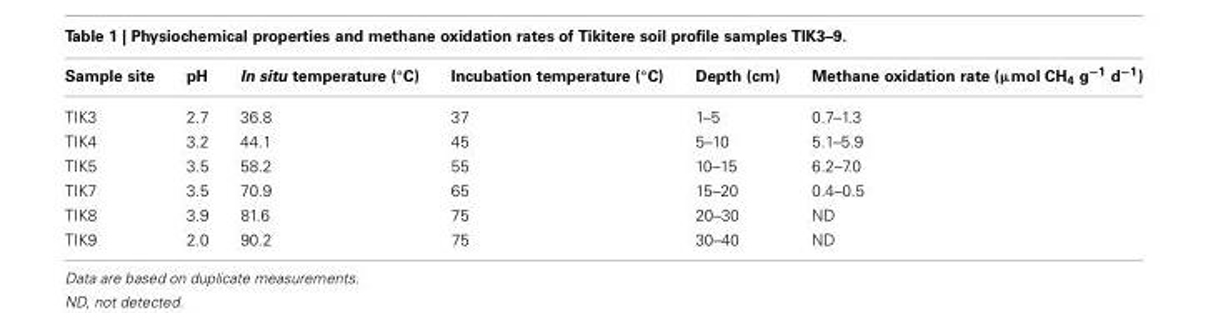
<table><thead><tr><td>Sample site</td><td>pH</td><td>In situ temperature (◦C)</td><td>Incubation temperature (◦C)</td><td>Depth (cm)</td><td>Methane oxidation rate (µmol CH<sub>4</sub> g<sup>−1</sup> d<sup>−1</sup>)</td></tr></thead><tbody><tr><td>TIK3</td><td>2.7</td><td>36.8</td><td>37</td><td>1–5</td><td>0.7–1.3</td></tr><tr><td>TIK4</td><td>3.2</td><td>44.1</td><td>45</td><td>5–10</td><td>5.1–5.9</td></tr><tr><td>TIK5</td><td>3.5</td><td>58.2</td><td>55</td><td>10–15</td><td>6.2–7.0</td></tr><tr><td>TIK7</td><td>3.5</td><td>70.9</td><td>65</td><td>15–20</td><td>0.4–0.5</td></tr><tr><td>TIK8</td><td>3.9</td><td>81.6</td><td>75</td><td>20–30</td><td>ND</td></tr><tr><td>TIK9</td><td>2.0</td><td>90.2</td><td>75</td><td>30–40</td><td>ND</td></tr></tbody></table>